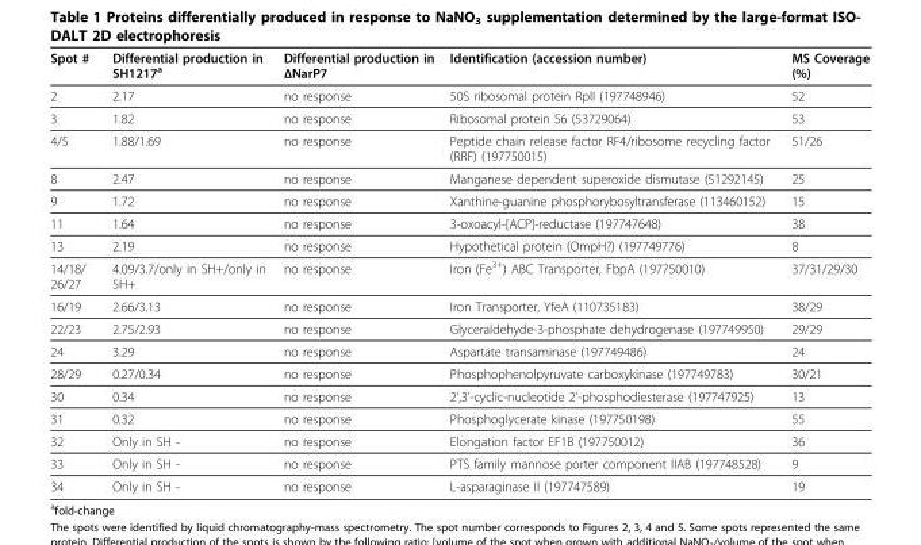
<table><thead><tr><td>Spot #</td><td>Differential production in SH1217<sup>a</sup></td><td>Differential production in ΔNarP7</td><td>Identification (accession number)</td><td>MS Coverage (%)</td></tr></thead><tbody><tr><td>2</td><td>2.17</td><td>no response</td><td>50S ribosomal protein RplI (197748946)</td><td>52</td></tr><tr><td>3</td><td>1.82</td><td>no response</td><td>Ribosomal protein S6 (53729064)</td><td>53</td></tr><tr><td>4/5</td><td>1.88/1.69</td><td>no response</td><td>Peptide chain release factor RF4/ribosome recycling factor (RRF) (197750015)</td><td>51/26</td></tr><tr><td>8</td><td>2.47</td><td>no response</td><td>Manganese dependent superoxide dismutase (51292145)</td><td>25</td></tr><tr><td>9</td><td>1.72</td><td>no response</td><td>Xanthine-guanine phosphorybosyltransferase (113460152)</td><td>15</td></tr><tr><td>11</td><td>1.64</td><td>no response</td><td>3-oxoacyl-[ACP]-reductase (197747648)</td><td>38</td></tr><tr><td>13</td><td>2.19</td><td>no response</td><td>Hypothetical protein (OmpH?) (197749776)</td><td>8</td></tr><tr><td>14/18/ 26/27</td><td>4.09/3.7/only in SH+/only in SH+</td><td>no response</td><td>Iron (Fe<sup>3+</sup>) ABC Transporter, FbpA (197750010)</td><td>37/31/29/30</td></tr><tr><td>16/19</td><td>2.66/3.13</td><td>no response</td><td>Iron Transporter, YfeA (110735183)</td><td>38/29</td></tr><tr><td>22/23</td><td>2.75/2.93</td><td>no response</td><td>Glyceraldehyde-3-phosphate dehydrogenase (197749950)</td><td>29/29</td></tr><tr><td>24</td><td>3.29</td><td>no response</td><td>Aspartate transaminase (197749486)</td><td>24</td></tr><tr><td>28/29</td><td>0.27/0.34</td><td>no response</td><td>Phosphophenolpyruvate carboxykinase (197749783)</td><td>30/21</td></tr><tr><td>30</td><td>0.34</td><td>no response</td><td>2’,3’-cyclic-nucleotide 2’-phosphodiesterase (197747925)</td><td>13</td></tr><tr><td>31</td><td>0.32</td><td>no response</td><td>Phosphoglycerate kinase (197750198)</td><td>55</td></tr><tr><td>32</td><td>Only in SH -</td><td>no response</td><td>Elongation factor EF1B (197750012)</td><td>36</td></tr><tr><td>33</td><td>Only in SH -</td><td>no response</td><td>PTS family mannose porter component IIAB (197748528)</td><td>9</td></tr><tr><td>34</td><td>Only in SH -</td><td>no response</td><td>L-asparaginase II (197747589)</td><td>19</td></tr></tbody></table>